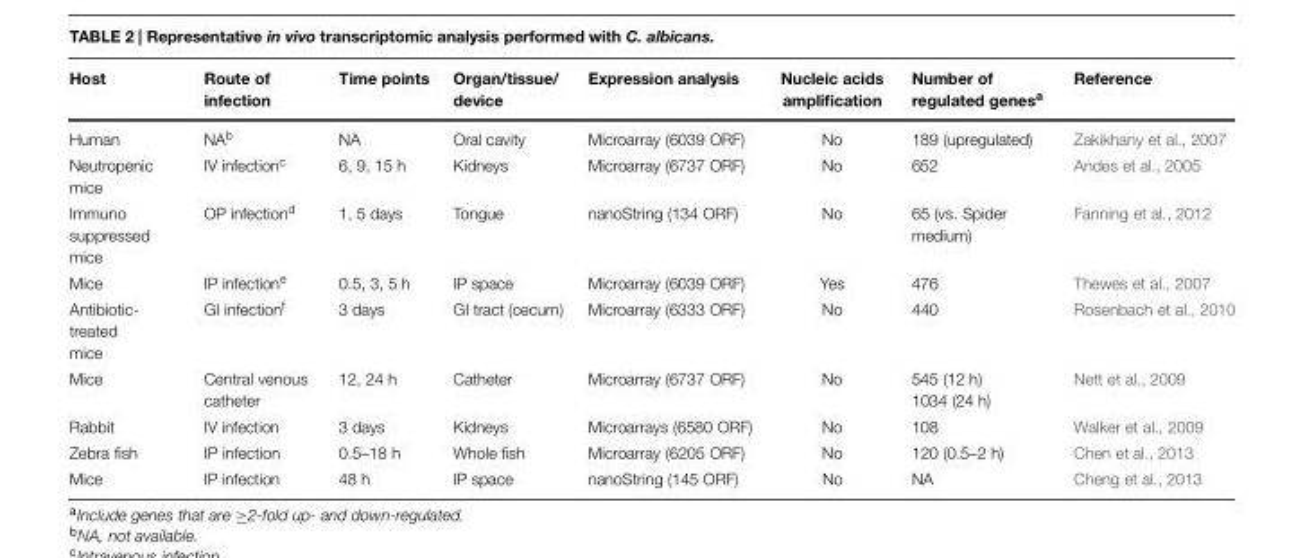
<table><thead><tr><td>Host</td><td>Route of infection</td><td>Time points</td><td>Organ/tissue/ device</td><td>Expression analysis</td><td>Nucleic acids amplification</td><td>Number of regulated genes<sup>a</sup></td><td>Reference</td></tr></thead><tbody><tr><td>Human</td><td>NA<sup>b</sup></td><td>NA</td><td>Oral cavity</td><td>Microarray (6039 ORF)</td><td>No</td><td>189 (upregulated)</td><td>Zakikhany et al., 2007</td></tr><tr><td>Neutropenic mice</td><td>IV infection<sup>c</sup></td><td>6, 9, 15 h</td><td>Kidneys</td><td>Microarray (6737 ORF)</td><td>No</td><td>652</td><td>Andes et al., 2005</td></tr><tr><td>Immuno suppressed mice</td><td>OP infection<sup>d</sup></td><td>1, 5 days</td><td>Tongue</td><td>nanoString (134 ORF)</td><td>No</td><td>65 (vs. Spider medium)</td><td>Fanning et al., 2012</td></tr><tr><td>Mice</td><td>IP infection<sup>e</sup></td><td>0.5, 3, 5 h</td><td>IP space</td><td>Microarray (6039 ORF)</td><td>Yes</td><td>476</td><td>Thewes et al., 2007</td></tr><tr><td>Antibiotic- treated mice</td><td>GI infection<sup>f</sup></td><td>3 days</td><td>GI tract (cecum)</td><td>Microarray (6333 ORF)</td><td>No</td><td>440</td><td>Rosenbach et al., 2010</td></tr><tr><td>Mice</td><td>Central venous catheter</td><td>12, 24 h</td><td>Catheter</td><td>Microarray (6737 ORF)</td><td>No</td><td>545 (12 h) 1034 (24 h)</td><td>Nett et al., 2009</td></tr><tr><td>Rabbit</td><td>IV infection</td><td>3 days</td><td>Kidneys</td><td>Microarrays (6580 ORF)</td><td>No</td><td>108</td><td>Walker et al., 2009</td></tr><tr><td>Zebra fish</td><td>IP infection</td><td>0.5–18 h</td><td>Whole fish</td><td>Microarray (6205 ORF)</td><td>No</td><td>120 (0.5–2 h)</td><td>Chen et al., 2013</td></tr><tr><td>Mice</td><td>IP infection</td><td>48 h</td><td>IP space</td><td>nanoString (145 ORF)</td><td>No</td><td>NA</td><td>Cheng et al., 2013</td></tr></tbody></table>